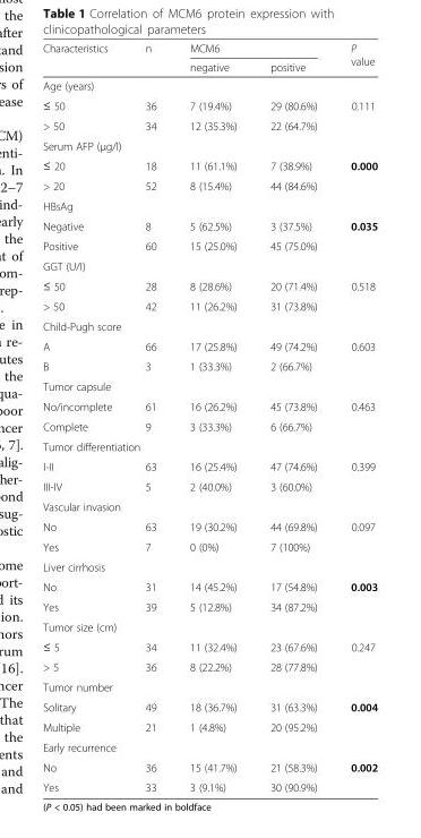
<table><thead><tr><td rowspan="2">Characteristics</td><td rowspan="2">n</td><td colspan="2">MCM6</td><td rowspan="2">P value</td></tr><tr><td>negative</td><td>positive</td></tr></thead><tbody><tr><td colspan="5">Age (years)</td></tr><tr><td>≤ 50</td><td>36</td><td>7 (19.4%)</td><td>29 (80.6%)</td><td rowspan="2">0.111</td></tr><tr><td>&gt; 50</td><td>34</td><td>12 (35.3%)</td><td>22 (64.7%)</td></tr><tr><td colspan="5">Serum AFP (μg/l)</td></tr><tr><td>≤ 20</td><td>18</td><td>11 (61.1%)</td><td>7 (38.9%)</td><td rowspan="2">0.000</td></tr><tr><td>&gt; 20</td><td>52</td><td>8 (15.4%)</td><td>44 (84.6%)</td></tr><tr><td colspan="5">HBsAg</td></tr><tr><td>Negative</td><td>8</td><td>5 (62.5%)</td><td>3 (37.5%)</td><td rowspan="2">0.035</td></tr><tr><td>Positive</td><td>60</td><td>15 (25.0%)</td><td>45 (75.0%)</td></tr><tr><td colspan="5">GGT (U/I)</td></tr><tr><td>≤ 50</td><td>28</td><td>8 (28.6%)</td><td>20 (71.4%)</td><td rowspan="2">0.518</td></tr><tr><td>&gt; 50</td><td>42</td><td>11 (26.2%)</td><td>31 (73.8%)</td></tr><tr><td colspan="5">Child-Pugh score</td></tr><tr><td>A</td><td>66</td><td>17 (25.8%)</td><td>49 (74.2%)</td><td rowspan="2">0.603</td></tr><tr><td>B</td><td>3</td><td>1 (33.3%)</td><td>2 (66.7%)</td></tr><tr><td colspan="5">Tumor capsule</td></tr><tr><td>No/incomplete</td><td>61</td><td>16 (26.2%)</td><td>45 (73.8%)</td><td rowspan="2">0.463</td></tr><tr><td>Complete</td><td>9</td><td>3 (33.3%)</td><td>6 (66.7%)</td></tr><tr><td colspan="5">Tumor differentiation</td></tr><tr><td>I-II</td><td>63</td><td>16 (25.4%)</td><td>47 (74.6%)</td><td rowspan="2">0.399</td></tr><tr><td>III-IV</td><td>5</td><td>2 (40.0%)</td><td>3 (60.0%)</td></tr><tr><td colspan="5">Vascular invasion</td></tr><tr><td>No</td><td>63</td><td>19 (30.2%)</td><td>44 (69.8%)</td><td rowspan="2">0.097</td></tr><tr><td>Yes</td><td>7</td><td>0 (0%)</td><td>7 (100%)</td></tr><tr><td colspan="5">Liver cirrhosis</td></tr><tr><td>No</td><td>31</td><td>14 (45.2%)</td><td>17 (54.8%)</td><td rowspan="2">0.003</td></tr><tr><td>Yes</td><td>39</td><td>5 (12.8%)</td><td>34 (87.2%)</td></tr><tr><td colspan="5">Tumor size (cm)</td></tr><tr><td>≤ 5</td><td>34</td><td>11 (32.4%)</td><td>23 (67.6%)</td><td rowspan="2">0.247</td></tr><tr><td>&gt; 5</td><td>36</td><td>8 (22.2%)</td><td>28 (77.8%)</td></tr><tr><td colspan="5">Tumor number</td></tr><tr><td>Solitary</td><td>49</td><td>18 (36.7%)</td><td>31 (63.3%)</td><td rowspan="2">0.004</td></tr><tr><td>Multiple</td><td>21</td><td>1 (4.8%)</td><td>20 (95.2%)</td></tr><tr><td colspan="5">Early recurrence</td></tr><tr><td>No</td><td>36</td><td>15 (41.7%)</td><td>21 (58.3%)</td><td rowspan="2">0.002</td></tr><tr><td>Yes</td><td>33</td><td>3 (9.1%)</td><td>30 (90.9%)</td></tr></tbody></table>